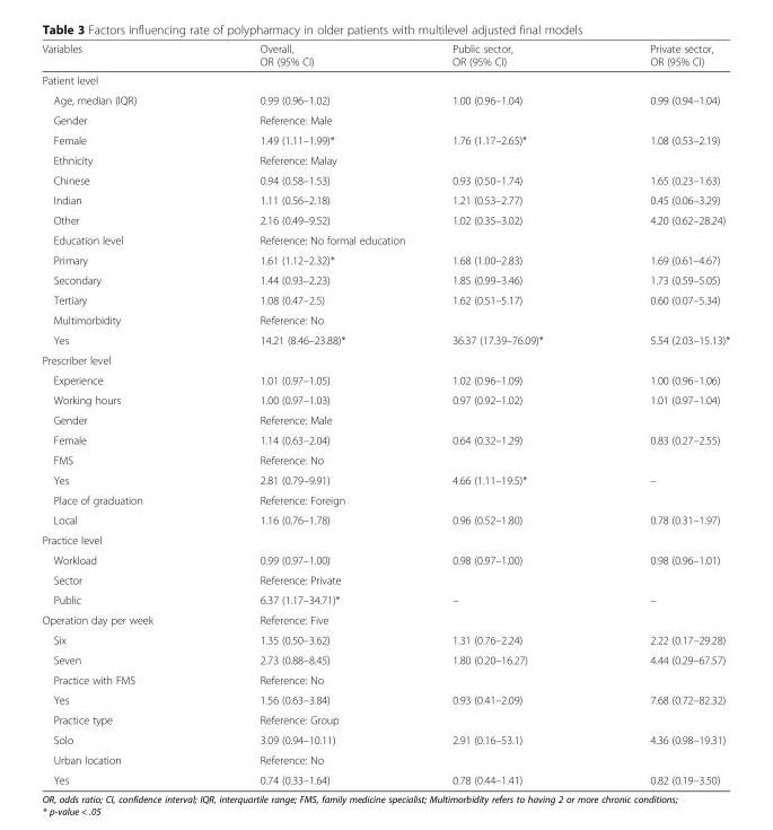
<table><thead><tr><td>Variables</td><td>Overall, OR (95% CI)</td><td>Public sector, OR (95% CI)</td><td>Private sector, OR (95% CI)</td></tr></thead><tbody><tr><td colspan="4">Patient level</td></tr><tr><td>Age, median (IQR)</td><td>0.99 (0.96–1.02)</td><td>1.00 (0.96–1.04)</td><td>0.99 (0.94–1.04)</td></tr><tr><td>Gender</td><td colspan="3">Reference: Male</td></tr><tr><td>Female</td><td>1.49 (1.11–1.99)*</td><td>1.76 (1.17–2.65)*</td><td>1.08 (0.53–2.19)</td></tr><tr><td>Ethnicity</td><td>Reference: Malay</td><td></td><td></td></tr><tr><td>Chinese</td><td>0.94 (0.58–1.53)</td><td>0.93 (0.50–1.74)</td><td>1.65 (0.23–1.63)</td></tr><tr><td>Indian</td><td>1.11 (0.56–2.18)</td><td>1.21 (0.53–2.77)</td><td>0.45 (0.06–3.29)</td></tr><tr><td>Other</td><td>2.16 (0.49–9.52)</td><td>1.02 (0.35–3.02)</td><td>4.20 (0.62–28.24)</td></tr><tr><td>Education level</td><td colspan="3">Reference: No formal education</td></tr><tr><td>Primary</td><td>1.61 (1.12–2.32)*</td><td>1.68 (1.00–2.83)</td><td>1.69 (0.61–4.67)</td></tr><tr><td>Secondary</td><td>1.44 (0.93–2.23)</td><td>1.85 (0.99–3.46)</td><td>1.73 (0.59–5.05)</td></tr><tr><td>Tertiary</td><td>1.08 (0.47–2.5)</td><td>1.62 (0.51–5.17)</td><td>0.60 (0.07–5.34)</td></tr><tr><td>Multimorbidity</td><td colspan="3">Reference: No</td></tr><tr><td>Yes</td><td>14.21 (8.46–23.88)*</td><td>36.37 (17.39–76.09)*</td><td>5.54 (2.03–15.13)*</td></tr><tr><td colspan="4">Prescriber level</td></tr><tr><td>Experience</td><td>1.01 (0.97–1.05)</td><td>1.02 (0.96–1.09)</td><td>1.00 (0.96–1.06)</td></tr><tr><td>Working hours</td><td>1.00 (0.97–1.03)</td><td>0.97 (0.92–1.02)</td><td>1.01 (0.97–1.04)</td></tr><tr><td>Gender</td><td colspan="3">Reference: Male</td></tr><tr><td>Female</td><td>1.14 (0.63–2.04)</td><td>0.64 (0.32–1.29)</td><td>0.83 (0.27–2.55)</td></tr><tr><td>FMS</td><td colspan="3">Reference: No</td></tr><tr><td>Yes</td><td>2.81 (0.79–9.91)</td><td>4.66 (1.11–19.5)*</td><td>–</td></tr><tr><td>Place of graduation</td><td colspan="3">Reference: Foreign</td></tr><tr><td>Local</td><td>1.16 (0.76–1.78)</td><td>0.96 (0.52–1.80)</td><td>0.78 (0.31–1.97)</td></tr><tr><td colspan="4">Practice level</td></tr><tr><td>Workload</td><td>0.99 (0.97–1.00)</td><td>0.98 (0.97–1.00)</td><td>0.98 (0.96–1.01)</td></tr><tr><td>Sector</td><td colspan="3">Reference: Private</td></tr><tr><td>Public</td><td>6.37 (1.17–34.71)*</td><td>–</td><td>–</td></tr><tr><td>Operation day per week</td><td colspan="3">Reference: Five</td></tr><tr><td>Six</td><td>1.35 (0.50–3.62)</td><td>1.31 (0.76–2.24)</td><td>2.22 (0.17–29.28)</td></tr><tr><td>Seven</td><td>2.73 (0.88–8.45)</td><td>1.80 (0.20–16.27)</td><td>4.44 (0.29–67.57)</td></tr><tr><td>Practice with FMS</td><td colspan="3">Reference: No</td></tr><tr><td>Yes</td><td>1.56 (0.63–3.84)</td><td>0.93 (0.41–2.09)</td><td>7.68 (0.72–82.32)</td></tr><tr><td>Practice type</td><td colspan="3">Reference: Group</td></tr><tr><td>Solo</td><td>3.09 (0.94–10.11)</td><td>2.91 (0.16–53.1)</td><td>4.36 (0.98–19.31)</td></tr><tr><td>Urban location</td><td colspan="3">Reference: No</td></tr><tr><td>Yes</td><td>0.74 (0.33–1.64)</td><td>0.78 (0.44–1.41)</td><td>0.82 (0.19–3.50)</td></tr></tbody></table>